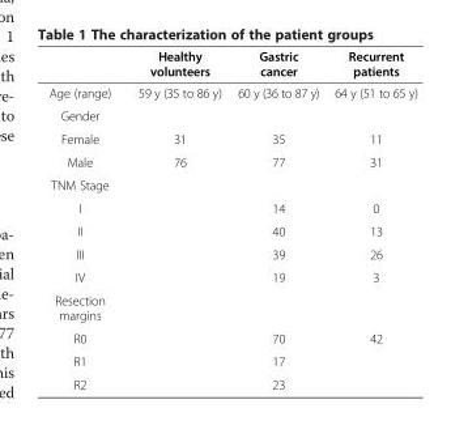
<table><thead><tr><td></td><td>Healthy volunteers</td><td>Gastric cancer</td><td>Recurrent patients</td></tr></thead><tbody><tr><td>Age (range)</td><td>59 y (35 to 86 y)</td><td>60 y (36 to 87 y)</td><td>64 y (51 to 65 y)</td></tr><tr><td colspan="4">Gender</td></tr><tr><td>Female</td><td>31</td><td>35</td><td>11</td></tr><tr><td>Male</td><td>76</td><td>77</td><td>31</td></tr><tr><td colspan="4">TNM Stage</td></tr><tr><td>I</td><td></td><td>14</td><td>0</td></tr><tr><td>II</td><td></td><td>40</td><td>13</td></tr><tr><td>III</td><td></td><td>39</td><td>26</td></tr><tr><td>IV</td><td></td><td>19</td><td>3</td></tr><tr><td colspan="4">Resection margins</td></tr><tr><td>R0</td><td></td><td>70</td><td>42</td></tr><tr><td>R1</td><td></td><td>17</td><td></td></tr><tr><td>R2</td><td></td><td>23</td><td></td></tr></tbody></table>